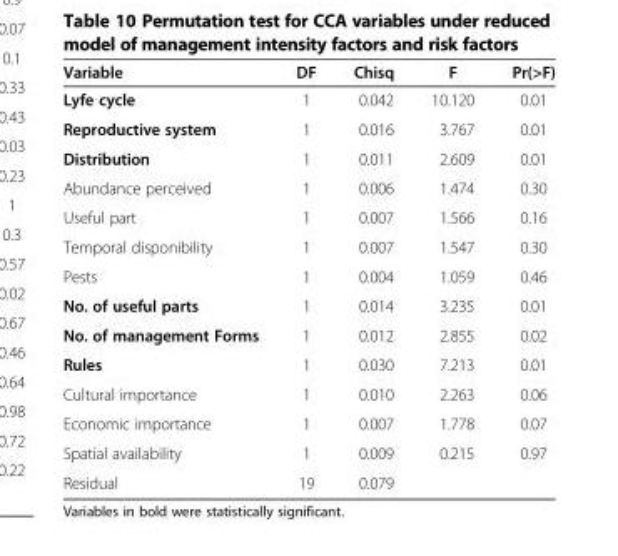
<table><thead><tr><td>Variable</td><td>DF</td><td>Chisq</td><td>F</td><td>Pr(&gt;F)</td></tr></thead><tbody><tr><td>Lyfe cycle</td><td>1</td><td>0.042</td><td>10.120</td><td>0.01</td></tr><tr><td>Reproductive system</td><td>1</td><td>0.016</td><td>3.767</td><td>0.01</td></tr><tr><td>Distribution</td><td>1</td><td>0.011</td><td>2.609</td><td>0.01</td></tr><tr><td>Abundance perceived</td><td>1</td><td>0.006</td><td>1.474</td><td>0.30</td></tr><tr><td>Useful part</td><td>1</td><td>0.007</td><td>1.566</td><td>0.16</td></tr><tr><td>Temporal disponibility</td><td>1</td><td>0.007</td><td>1.547</td><td>0.30</td></tr><tr><td>Pests</td><td>1</td><td>0.004</td><td>1.059</td><td>0.46</td></tr><tr><td>No. of useful parts</td><td>1</td><td>0.014</td><td>3.235</td><td>0.01</td></tr><tr><td>No. of management Forms</td><td>1</td><td>0.012</td><td>2.855</td><td>0.02</td></tr><tr><td>Rules</td><td>1</td><td>0.030</td><td>7.213</td><td>0.01</td></tr><tr><td>Cultural importance</td><td>1</td><td>0.010</td><td>2.263</td><td>0.06</td></tr><tr><td>Economic importance</td><td>1</td><td>0.007</td><td>1.778</td><td>0.07</td></tr><tr><td>Spatial availability</td><td>1</td><td>0.009</td><td>0.215</td><td>0.97</td></tr><tr><td>Residual</td><td>19</td><td>0.079</td><td></td><td></td></tr></tbody></table>